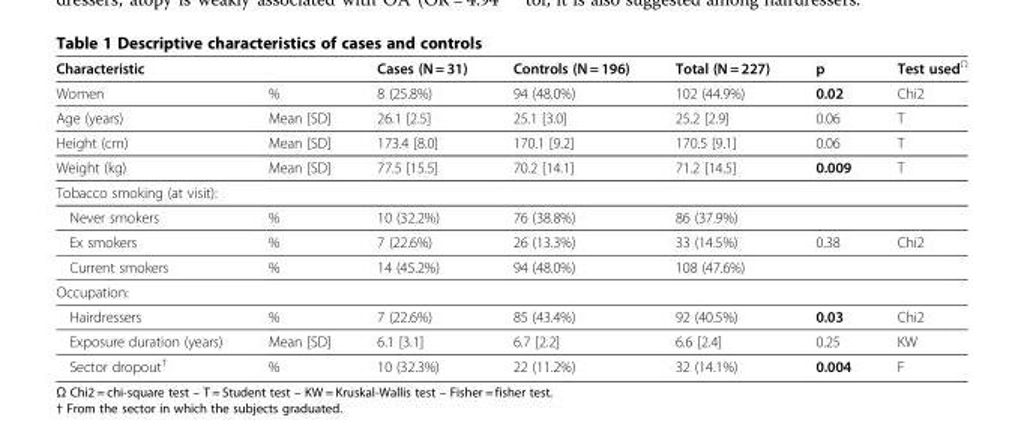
<table><thead><tr><td>Characteristic</td><td></td><td>Cases (N = 31)</td><td>Controls (N = 196)</td><td>Total (N = 227)</td><td>p</td><td>Test used<sup>Ω</sup></td></tr></thead><tbody><tr><td>Women</td><td>%</td><td>8 (25.8%)</td><td>94 (48.0%)</td><td>102 (44.9%)</td><td>0.02</td><td>Chi2</td></tr><tr><td>Age (years)</td><td>Mean [SD]</td><td>26.1 [2.5]</td><td>25.1 [3.0]</td><td>25.2 [2.9]</td><td>0.06</td><td>T</td></tr><tr><td>Height (cm)</td><td>Mean [SD]</td><td>173.4 [8.0]</td><td>170.1 [9.2]</td><td>170.5 [9.1]</td><td>0.06</td><td>T</td></tr><tr><td>Weight (kg)</td><td>Mean [SD]</td><td>77.5 [15.5]</td><td>70.2 [14.1]</td><td>71.2 [14.5]</td><td>0.009</td><td>T</td></tr><tr><td colspan="7">Tobacco smoking (at visit):</td></tr><tr><td>Never smokers</td><td>%</td><td>10 (32.2%)</td><td>76 (38.8%)</td><td>86 (37.9%)</td><td></td><td></td></tr><tr><td>Ex smokers</td><td>%</td><td>7 (22.6%)</td><td>26 (13.3%)</td><td>33 (14.5%)</td><td>0.38</td><td>Chi2</td></tr><tr><td>Current smokers</td><td>%</td><td>14 (45.2%)</td><td>94 (48.0%)</td><td>108 (47.6%)</td><td></td><td></td></tr><tr><td colspan="7">Occupation:</td></tr><tr><td>Hairdressers</td><td>%</td><td>7 (22.6%)</td><td>85 (43.4%)</td><td>92 (40.5%)</td><td>0.03</td><td>Chi2</td></tr><tr><td>Exposure duration (years)</td><td>Mean [SD]</td><td>6.1 [3.1]</td><td>6.7 [2.2]</td><td>6.6 [2.4]</td><td>0.25</td><td>KW</td></tr><tr><td>Sector dropout<sup>†</sup></td><td>%</td><td>10 (32.3%)</td><td>22 (11.2%)</td><td>32 (14.1%)</td><td>0.004</td><td>F</td></tr></tbody></table>